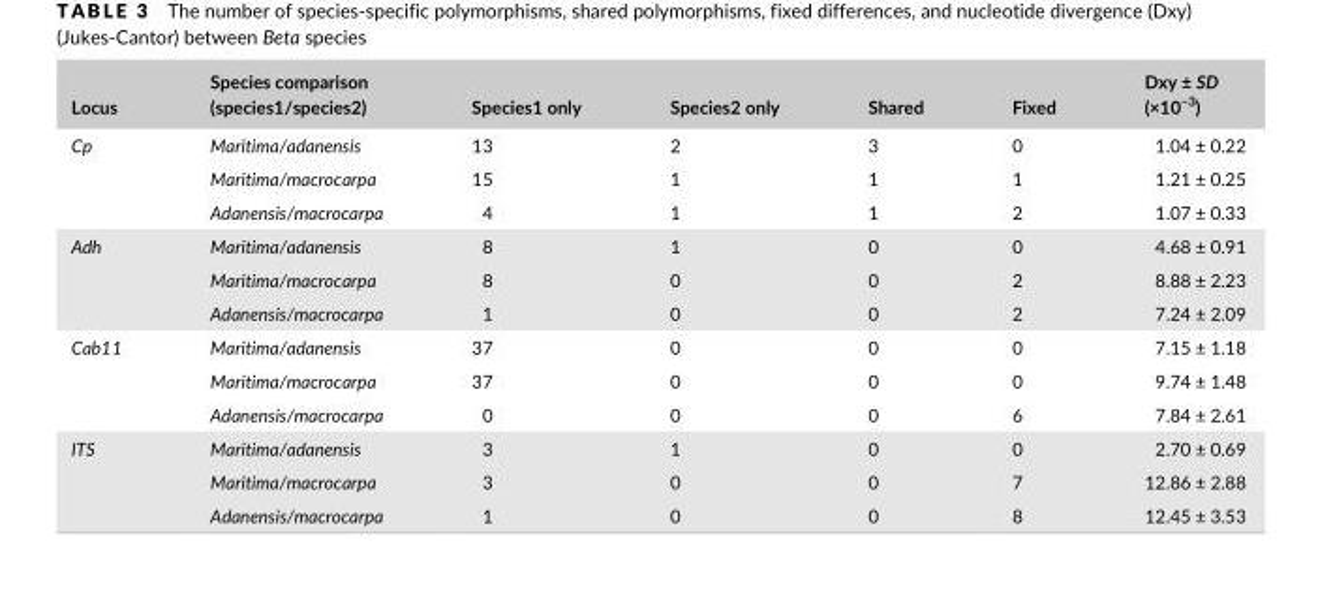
<table><thead><tr><td>Locus</td><td>Species comparison (species1/species2)</td><td>Species1 only</td><td>Species2 only</td><td>Shared</td><td>Fixed</td><td>Dxy ± SD (×10<sup>−3</sup>)</td></tr></thead><tbody><tr><td rowspan="3">Cp</td><td>Maritima/adanensis</td><td>13</td><td>2</td><td>3</td><td>0</td><td>1.04 ± 0.22</td></tr><tr><td>Maritima/macrocarpa</td><td>15</td><td>1</td><td>1</td><td>1</td><td>1.21 ± 0.25</td></tr><tr><td>Adanensis/macrocarpa</td><td>4</td><td>1</td><td>1</td><td>2</td><td>1.07 ± 0.33</td></tr><tr><td rowspan="3">Adh</td><td>Maritima/adanensis</td><td>8</td><td>1</td><td>0</td><td>0</td><td>4.68 ± 0.91</td></tr><tr><td>Maritima/macrocarpa</td><td>8</td><td>0</td><td>0</td><td>2</td><td>8.88 ± 2.23</td></tr><tr><td>Adanensis/macrocarpa</td><td>1</td><td>0</td><td>0</td><td>2</td><td>7.24 ± 2.09</td></tr><tr><td rowspan="3">Cab11</td><td>Maritima/adanensis</td><td>37</td><td>0</td><td>0</td><td>0</td><td>7.15 ± 1.18</td></tr><tr><td>Maritima/macrocarpa</td><td>37</td><td>0</td><td>0</td><td>0</td><td>9.74 ± 1.48</td></tr><tr><td>Adanensis/macrocarpa</td><td>0</td><td>0</td><td>0</td><td>6</td><td>7.84 ± 2.61</td></tr><tr><td rowspan="3">ITS</td><td>Maritima/adanensis</td><td>3</td><td>1</td><td>0</td><td>0</td><td>2.70 ± 0.69</td></tr><tr><td>Maritima/macrocarpa</td><td>3</td><td>0</td><td>0</td><td>7</td><td>12.86 ± 2.88</td></tr><tr><td>Adanensis/macrocarpa</td><td>1</td><td>0</td><td>0</td><td>8</td><td>12.45 ± 3.53</td></tr></tbody></table>